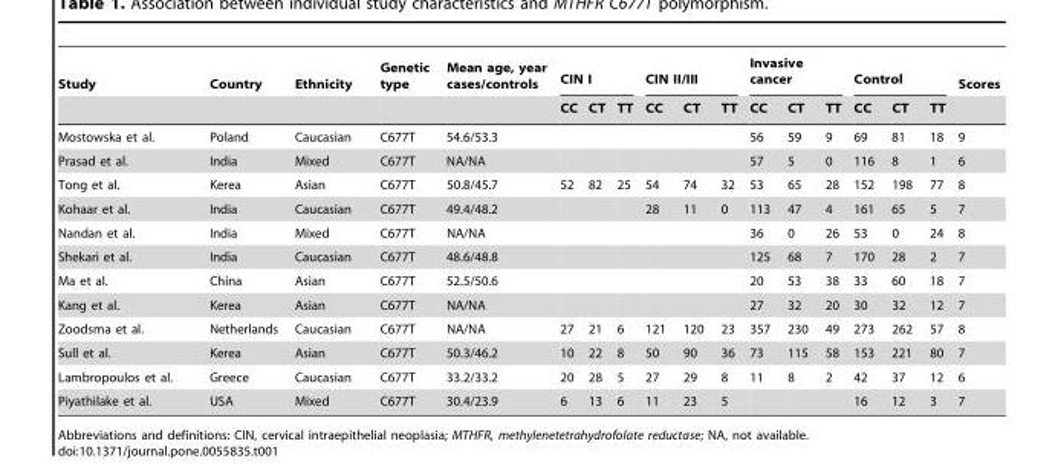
<table><thead><tr><td rowspan="2">Study</td><td rowspan="2">Country</td><td rowspan="2">Ethnicity</td><td rowspan="2">Genetic type</td><td rowspan="2">Mean age, year cases/controls</td><td colspan="3">CIN I</td><td colspan="3">CIN II/III</td><td colspan="3">Invasive cancer</td><td colspan="3">Control</td><td rowspan="2">Scores</td></tr><tr><td>CC</td><td>CT</td><td>TT</td><td>CC</td><td>CT</td><td>TT</td><td>CC</td><td>CT</td><td>TT</td><td>CC</td><td>CT</td><td>TT</td></tr></thead><tbody><tr><td>Mostowska et al.</td><td>Poland</td><td>Caucasian</td><td>C677T</td><td>54.6/53.3</td><td></td><td></td><td></td><td></td><td></td><td></td><td>56</td><td>59</td><td>9</td><td>69</td><td>81</td><td>18</td><td>9</td></tr><tr><td>Prasad et al.</td><td>India</td><td>Mixed</td><td>C677T</td><td>NA/NA</td><td></td><td></td><td></td><td></td><td></td><td></td><td>57</td><td>5</td><td>0</td><td>116</td><td>8</td><td>1</td><td>6</td></tr><tr><td>Tong et al.</td><td>Kerea</td><td>Asian</td><td>C677T</td><td>50.8/45.7</td><td>52</td><td>82</td><td>25</td><td>54</td><td>74</td><td>32</td><td>53</td><td>65</td><td>28</td><td>152</td><td>198</td><td>77</td><td>8</td></tr><tr><td>Kohaar et al.</td><td>India</td><td>Caucasian</td><td>C677T</td><td>49.4/48.2</td><td></td><td></td><td></td><td>28</td><td>11</td><td>0</td><td>113</td><td>47</td><td>4</td><td>161</td><td>65</td><td>5</td><td>7</td></tr><tr><td>Nandan et al.</td><td>India</td><td>Mixed</td><td>C677T</td><td>NA/NA</td><td></td><td></td><td></td><td></td><td></td><td></td><td>36</td><td>0</td><td>26</td><td>53</td><td>0</td><td>24</td><td>8</td></tr><tr><td>Shekari et al.</td><td>India</td><td>Caucasian</td><td>C677T</td><td>48.6/48.8</td><td></td><td></td><td></td><td></td><td></td><td></td><td>125</td><td>68</td><td>7</td><td>170</td><td>28</td><td>2</td><td>7</td></tr><tr><td>Ma et al.</td><td>China</td><td>Asian</td><td>C677T</td><td>52.5/50.6</td><td></td><td></td><td></td><td></td><td></td><td></td><td>20</td><td>53</td><td>38</td><td>33</td><td>60</td><td>18</td><td>7</td></tr><tr><td>Kang et al.</td><td>Kerea</td><td>Asian</td><td>C677T</td><td>NA/NA</td><td></td><td></td><td></td><td></td><td></td><td></td><td>27</td><td>32</td><td>20</td><td>30</td><td>32</td><td>12</td><td>7</td></tr><tr><td>Zoodsma et al.</td><td>Netherlands</td><td>Caucasian</td><td>C677T</td><td>NA/NA</td><td>27</td><td>21</td><td>6</td><td>121</td><td>120</td><td>23</td><td>357</td><td>230</td><td>49</td><td>273</td><td>262</td><td>57</td><td>8</td></tr><tr><td>Sull et al.</td><td>Kerea</td><td>Asian</td><td>C677T</td><td>50.3/46.2</td><td>10</td><td>22</td><td>8</td><td>50</td><td>90</td><td>36</td><td>73</td><td>115</td><td>58</td><td>153</td><td>221</td><td>80</td><td>7</td></tr><tr><td>Lambropoulos et al.</td><td>Greece</td><td>Caucasian</td><td>C677T</td><td>33.2/33.2</td><td>20</td><td>28</td><td>5</td><td>27</td><td>29</td><td>8</td><td>11</td><td>8</td><td>2</td><td>42</td><td>37</td><td>12</td><td>6</td></tr><tr><td>Piyathilake et al.</td><td>USA</td><td>Mixed</td><td>C677T</td><td>30.4/23.9</td><td>6</td><td>13</td><td>6</td><td>11</td><td>23</td><td>5</td><td></td><td></td><td></td><td>16</td><td>12</td><td>3</td><td>7</td></tr></tbody></table>